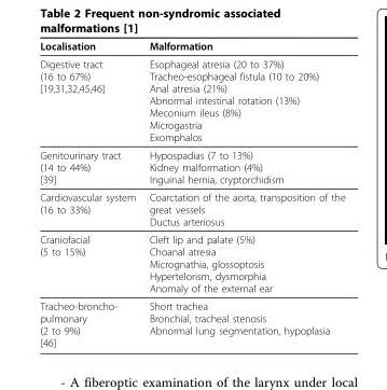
<table><thead><tr><td>Localisation</td><td>Malformation</td></tr></thead><tbody><tr><td>Digestive tract (16 to 67%) [19,31,32,45,46]</td><td>Esophageal atresia (20 to 37%) Tracheo-esophageal fistula (10 to 20%) Anal atresia (21%) Abnormal intestinal rotation (13%) Meconium ileus (8%) Microgastria Exomphalos</td></tr><tr><td>Genitourinary tract (14 to 44%) [39]</td><td>Hypospadias (7 to 13%) Kidney malformation (4%) Inguinal hernia, cryptorchidism</td></tr><tr><td>Cardiovascular system (16 to 33%)</td><td>Coarctation of the aorta, transposition of the great vessels Ductus arteriosus</td></tr><tr><td>Craniofacial (5 to 15%)</td><td>Cleft lip and palate (5%) Choanal atresia Micrognathia, glossoptosis Hypertelorism, dysmorphia Anomaly of the external ear</td></tr><tr><td>Tracheo-broncho- pulmonary (2 to 9%) [46]</td><td>Short trachea Bronchial, tracheal stenosis Abnormal lung segmentation, hypoplasia</td></tr></tbody></table>